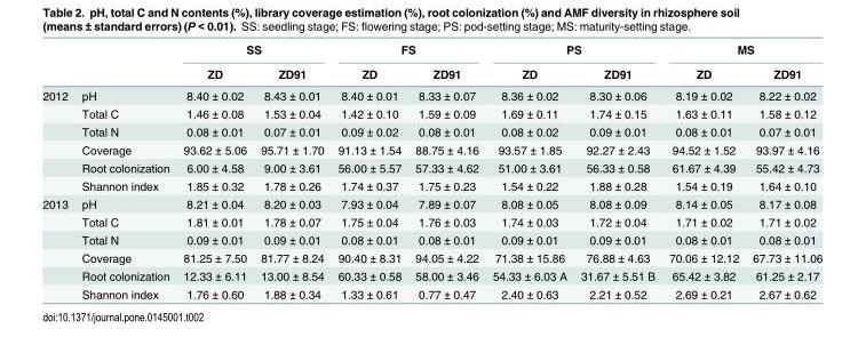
<table><thead><tr><td rowspan="2"></td><td rowspan="2"></td><td colspan="2">SS</td><td colspan="2">FS</td><td colspan="2">PS</td><td colspan="2">MS</td></tr><tr><td>ZD</td><td>ZD91</td><td>ZD</td><td>ZD91</td><td>ZD</td><td>ZD91</td><td>ZD</td><td>ZD91</td></tr></thead><tbody><tr><td rowspan="6">2012</td><td>pH</td><td>8.40 ± 0.02</td><td>8.43 ± 0.01</td><td>8.40 ± 0.01</td><td>8.33 ± 0.07</td><td>8.36 ± 0.02</td><td>8.30 ± 0.06</td><td>8.19 ± 0.02</td><td>8.22 ± 0.02</td></tr><tr><td>Total C</td><td>1.46 ± 0.08</td><td>1.53 ± 0.04</td><td>1.42 ± 0.10</td><td>1.59 ± 0.09</td><td>1.69 ± 0.11</td><td>1.74 ± 0.15</td><td>1.63 ± 0.11</td><td>1.58 ± 0.12</td></tr><tr><td>Total N</td><td>0.08 ± 0.01</td><td>0.07 ± 0.01</td><td>0.09 ± 0.02</td><td>0.08 ± 0.01</td><td>0.08 ± 0.02</td><td>0.09 ± 0.01</td><td>0.08 ± 0.01</td><td>0.07 ± 0.01</td></tr><tr><td>Coverage</td><td>93.62 ± 5.06</td><td>95.71 ± 1.70</td><td>91.13 ± 1.54</td><td>88.75 ± 4.16</td><td>93.57 ± 1.85</td><td>92.27 ± 2.43</td><td>94.52 ± 1.52</td><td>93.97 ± 4.16</td></tr><tr><td>Root colonization</td><td>6.00 ± 4.58</td><td>9.00 ± 3.61</td><td>56.00 ± 5.57</td><td>57.33 ± 4.62</td><td>51.00 ± 3.61</td><td>56.33 ± 0.58</td><td>61.67 ± 4.39</td><td>55.42 ± 4.73</td></tr><tr><td>Shannon index</td><td>1.85 ± 0.32</td><td>1.78 ± 0.26</td><td>1.74 ± 0.37</td><td>1.75 ± 0.23</td><td>1.54 ± 0.22</td><td>1.88 ± 0.28</td><td>1.54 ± 0.19</td><td>1.64 ± 0.10</td></tr><tr><td rowspan="6">2013</td><td>pH</td><td>8.21 ± 0.04</td><td>8.20 ± 0.03</td><td>7.93 ± 0.04</td><td>7.89 ± 0.07</td><td>8.08 ± 0.05</td><td>8.08 ± 0.09</td><td>8.14 ± 0.05</td><td>8.17 ± 0.08</td></tr><tr><td>Total C</td><td>1.81 ± 0.01</td><td>1.78 ± 0.07</td><td>1.75 ± 0.04</td><td>1.76 ± 0.03</td><td>1.74 ± 0.03</td><td>1.72 ± 0.04</td><td>1.71 ± 0.02</td><td>1.71 ± 0.02</td></tr><tr><td>Total N</td><td>0.09 ± 0.01</td><td>0.09 ± 0.01</td><td>0.08 ± 0.01</td><td>0.08 ± 0.01</td><td>0.09 ± 0.01</td><td>0.09 ± 0.01</td><td>0.08 ± 0.01</td><td>0.08 ± 0.01</td></tr><tr><td>Coverage</td><td>81.25 ± 7.50</td><td>81.77 ± 8.24</td><td>90.40 ± 8.31</td><td>94.05 ± 4.22</td><td>71.38 ± 15.86</td><td>76.88 ± 4.63</td><td>70.06 ± 12.12</td><td>67.73 ± 11.06</td></tr><tr><td>Root colonization</td><td>12.33 ± 6.11</td><td>13.00 ± 8.54</td><td>60.33 ± 0.58</td><td>58.00 ± 3.46</td><td>54.33 ± 6.03 A</td><td>31.67 ± 5.51 B</td><td>65.42 ± 3.82</td><td>61.25 ± 2.17</td></tr><tr><td>Shannon index</td><td>1.76 ± 0.60</td><td>1.88 ± 0.34</td><td>1.33 ± 0.61</td><td>0.77 ± 0.47</td><td>2.40 ± 0.63</td><td>2.21 ± 0.52</td><td>2.69 ± 0.21</td><td>2.67 ± 0.62</td></tr></tbody></table>